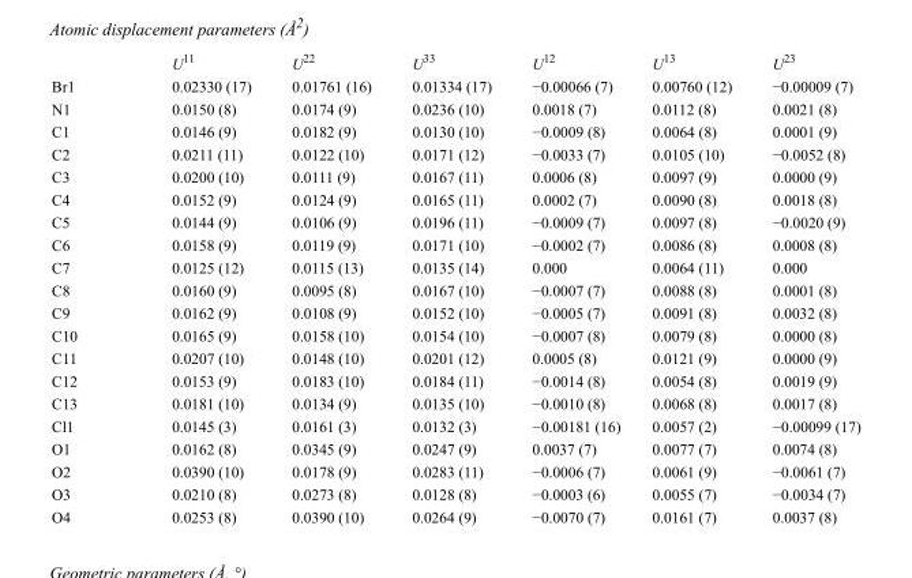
<table><thead><tr><td></td><td>U<sup>11</sup></td><td>U<sup>22</sup></td><td>U<sup>33</sup></td><td>U<sup>12</sup></td><td>U<sup>13</sup></td><td>U<sup>23</sup></td></tr></thead><tbody><tr><td>Br1</td><td>0.02330 (17)</td><td>0.01761 (16)</td><td>0.01334 (17)</td><td>−0.00066 (7)</td><td>0.00760 (12)</td><td>−0.00009 (7)</td></tr><tr><td>N1</td><td>0.0150 (8)</td><td>0.0174 (9)</td><td>0.0236 (10)</td><td>0.0018 (7)</td><td>0.0112 (8)</td><td>0.0021 (8)</td></tr><tr><td>C1</td><td>0.0146 (9)</td><td>0.0182 (9)</td><td>0.0130 (10)</td><td>−0.0009 (8)</td><td>0.0064 (8)</td><td>0.0001 (9)</td></tr><tr><td>C2</td><td>0.0211 (11)</td><td>0.0122 (10)</td><td>0.0171 (12)</td><td>−0.0033 (7)</td><td>0.0105 (10)</td><td>−0.0052 (8)</td></tr><tr><td>C3</td><td>0.0200 (10)</td><td>0.0111 (9)</td><td>0.0167 (11)</td><td>0.0006 (8)</td><td>0.0097 (9)</td><td>0.0000 (9)</td></tr><tr><td>C4</td><td>0.0152 (9)</td><td>0.0124 (9)</td><td>0.0165 (11)</td><td>0.0002 (7)</td><td>0.0090 (8)</td><td>0.0018 (8)</td></tr><tr><td>C5</td><td>0.0144 (9)</td><td>0.0106 (9)</td><td>0.0196 (11)</td><td>−0.0009 (7)</td><td>0.0097 (8)</td><td>−0.0020 (9)</td></tr><tr><td>C6</td><td>0.0158 (9)</td><td>0.0119 (9)</td><td>0.0171 (10)</td><td>−0.0002 (7)</td><td>0.0086 (8)</td><td>0.0008 (8)</td></tr><tr><td>C7</td><td>0.0125 (12)</td><td>0.0115 (13)</td><td>0.0135 (14)</td><td>0.000</td><td>0.0064 (11)</td><td>0.000</td></tr><tr><td>C8</td><td>0.0160 (9)</td><td>0.0095 (8)</td><td>0.0167 (10)</td><td>−0.0007 (7)</td><td>0.0088 (8)</td><td>0.0001 (8)</td></tr><tr><td>C9</td><td>0.0162 (9)</td><td>0.0108 (9)</td><td>0.0152 (10)</td><td>−0.0005 (7)</td><td>0.0091 (8)</td><td>0.0032 (8)</td></tr><tr><td>C10</td><td>0.0165 (9)</td><td>0.0158 (10)</td><td>0.0154 (10)</td><td>−0.0007 (8)</td><td>0.0079 (8)</td><td>0.0000 (8)</td></tr><tr><td>C11</td><td>0.0207 (10)</td><td>0.0148 (10)</td><td>0.0201 (12)</td><td>0.0005 (8)</td><td>0.0121 (9)</td><td>0.0000 (9)</td></tr><tr><td>C12</td><td>0.0153 (9)</td><td>0.0183 (10)</td><td>0.0184 (11)</td><td>−0.0014 (8)</td><td>0.0054 (8)</td><td>0.0019 (9)</td></tr><tr><td>C13</td><td>0.0181 (10)</td><td>0.0134 (9)</td><td>0.0135 (10)</td><td>−0.0010 (8)</td><td>0.0068 (8)</td><td>0.0017 (8)</td></tr><tr><td>Cl1</td><td>0.0145 (3)</td><td>0.0161 (3)</td><td>0.0132 (3)</td><td>−0.00181 (16)</td><td>0.0057 (2)</td><td>−0.00099 (17)</td></tr><tr><td>O1</td><td>0.0162 (8)</td><td>0.0345 (9)</td><td>0.0247 (9)</td><td>0.0037 (7)</td><td>0.0077 (7)</td><td>0.0074 (8)</td></tr><tr><td>O2</td><td>0.0390 (10)</td><td>0.0178 (9)</td><td>0.0283 (11)</td><td>−0.0006 (7)</td><td>0.0061 (9)</td><td>−0.0061 (7)</td></tr><tr><td>O3</td><td>0.0210 (8)</td><td>0.0273 (8)</td><td>0.0128 (8)</td><td>−0.0003 (6)</td><td>0.0055 (7)</td><td>−0.0034 (7)</td></tr><tr><td>O4</td><td>0.0253 (8)</td><td>0.0390 (10)</td><td>0.0264 (9)</td><td>−0.0070 (7)</td><td>0.0161 (7)</td><td>0.0037 (8)</td></tr></tbody></table>